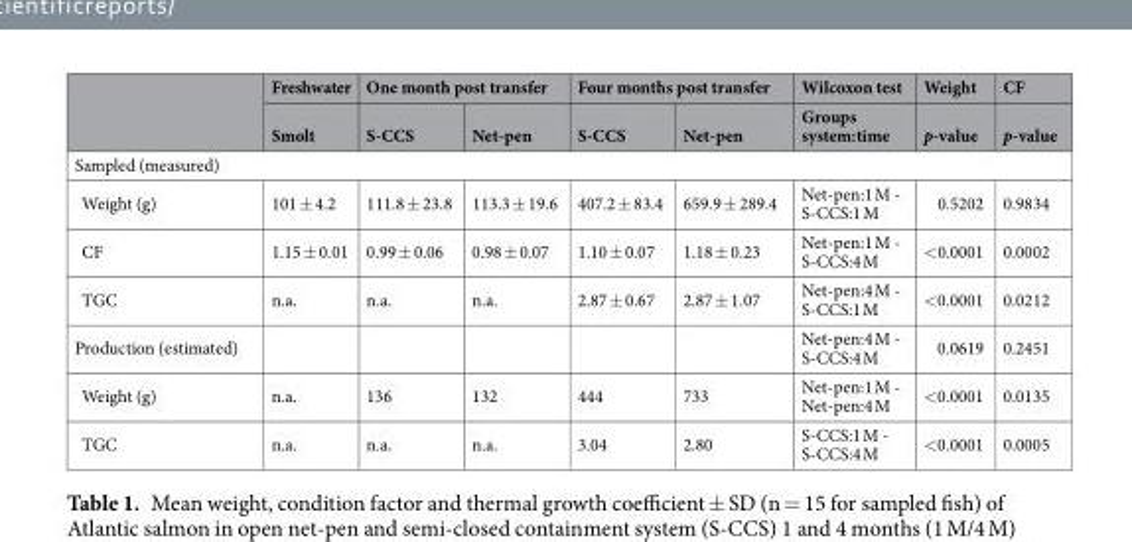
<table><thead><tr><td rowspan="2"></td><td rowspan="2">Freshwater Smolt</td><td colspan="2">One month post transfer</td><td colspan="2">Four months post transfer</td><td rowspan="2">Wilcoxon test Groups system:time</td><td rowspan="2">Weight p-value</td><td rowspan="2">CF p-value</td></tr><tr><td>S-CCS</td><td>Net-pen</td><td>S-CCS</td><td>Net-pen</td></tr></thead><tbody><tr><td colspan="9">Sampled (measured)</td></tr><tr><td>Weight (g)</td><td>101 ± 4.2</td><td>111.8 ± 23.8</td><td>113.3 ± 19.6</td><td>407.2 ± 83.4</td><td>659.9 ± 289.4</td><td>Net-pen:1 M - S-CCS:1 M</td><td>0.5202</td><td>0.9834</td></tr><tr><td>CF</td><td>1.15 ± 0.01</td><td>0.99 ± 0.06</td><td>0.98 ± 0.07</td><td>1.10 ± 0.07</td><td>1.18 ± 0.23</td><td>Net-pen:1 M - S-CCS:4 M</td><td>&lt;0.0001</td><td>0.0002</td></tr><tr><td>TGC</td><td>n.a.</td><td>n.a.</td><td>n.a.</td><td>2.87 ± 0.67</td><td>2.87 ± 1.07</td><td>Net-pen:4 M - S-CCS:1 M</td><td>&lt;0.0001</td><td>0.0212</td></tr><tr><td>Production (estimated)</td><td></td><td></td><td></td><td></td><td></td><td>Net-pen:4 M - S-CCS:4 M</td><td>0.0619</td><td>0.2451</td></tr><tr><td>Weight (g)</td><td>n.a.</td><td>136</td><td>132</td><td>444</td><td>733</td><td>Net-pen:1 M - Net-pen:4 M</td><td>&lt;0.0001</td><td>0.0135</td></tr><tr><td>TGC</td><td>n.a.</td><td>n.a.</td><td>n.a.</td><td>3.04</td><td>2.80</td><td>S-CCS:1 M - S-CCS:4 M</td><td>&lt;0.0001</td><td>0.0005</td></tr></tbody></table>